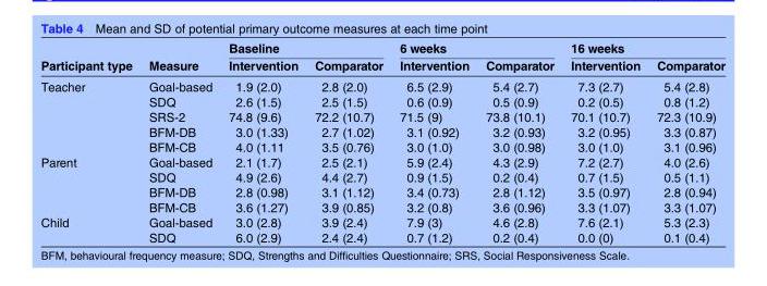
<table><thead><tr><td rowspan="2">Participant type</td><td rowspan="2">Measure</td><td colspan="2">Baseline</td><td colspan="2">6 weeks</td><td colspan="2">16 weeks</td></tr><tr><td>Intervention</td><td>Comparator</td><td>Intervention</td><td>Comparator</td><td>Intervention</td><td>Comparator</td></tr></thead><tbody><tr><td rowspan="5">Teacher</td><td>Goal-based</td><td>1.9 (2.0)</td><td>2.8 (2.0)</td><td>6.5 (2.9)</td><td>5.4 (2.7)</td><td>7.3 (2.7)</td><td>5.4 (2.8)</td></tr><tr><td>SDQ</td><td>2.6 (1.5)</td><td>2.5 (1.5)</td><td>0.6 (0.9)</td><td>0.5 (0.9)</td><td>0.2 (0.5)</td><td>0.8 (1.2)</td></tr><tr><td>SRS-2</td><td>74.8 (9.6)</td><td>72.2 (10.7)</td><td>71.5 (9)</td><td>73.8 (10.1)</td><td>70.1 (10.7)</td><td>72.3 (10.9)</td></tr><tr><td>BFM-DB</td><td>3.0 (1.33)</td><td>2.7 (1.02)</td><td>3.1 (0.92)</td><td>3.2 (0.93)</td><td>3.2 (0.95)</td><td>3.3 (0.87)</td></tr><tr><td>BFM-CB</td><td>4.0 (1.11</td><td>3.5 (0.76)</td><td>3.0 (1.0)</td><td>3.0 (0.98)</td><td>3.0 (1.0)</td><td>3.1 (0.96)</td></tr><tr><td rowspan="4">Parent</td><td>Goal-based</td><td>2.1 (1.7)</td><td>2.5 (2.1)</td><td>5.9 (2.4)</td><td>4.3 (2.9)</td><td>7.2 (2.7)</td><td>4.0 (2.6)</td></tr><tr><td>SDQ</td><td>4.9 (2.6)</td><td>4.4 (2.7)</td><td>0.9 (1.5)</td><td>0.2 (0.4)</td><td>0.7 (1.5)</td><td>0.5 (1.1)</td></tr><tr><td>BFM-DB</td><td>2.8 (0.98)</td><td>3.1 (1.12)</td><td>3.4 (0.73)</td><td>2.8 (1.12)</td><td>3.5 (0.97)</td><td>2.8 (0.94)</td></tr><tr><td>BFM-CB</td><td>3.6 (1.27)</td><td>3.9 (0.85)</td><td>3.2 (0.8)</td><td>3.6 (0.96)</td><td>3.3 (1.07)</td><td>3.3 (1.07)</td></tr><tr><td rowspan="2">Child</td><td>Goal-based</td><td>3.0 (2.8)</td><td>3.9 (2.4)</td><td>7.9 (3)</td><td>4.6 (2.8)</td><td>7.6 (2.1)</td><td>5.3 (2.3)</td></tr><tr><td>SDQ</td><td>6.0 (2.9)</td><td>2.4 (2.4)</td><td>0.7 (1.2)</td><td>0.2 (0.4)</td><td>0.0 (0)</td><td>0.1 (0.4)</td></tr></tbody></table>